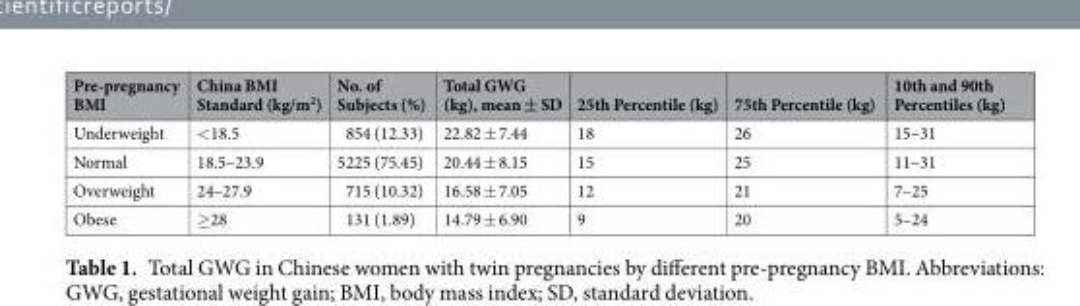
<table><thead><tr><td>Pre-pregnancy BMI</td><td>China BMI Standard (kg/m<sup>2</sup>)</td><td>No. of Subjects (%)</td><td>Total GWG (kg), mean ± SD</td><td>25th Percentile (kg)</td><td>75th Percentile (kg)</td><td>10th and 90th Percentiles (kg)</td></tr></thead><tbody><tr><td>Underweight</td><td>&lt;18.5</td><td>854 (12.33)</td><td>22.82 ± 7.44</td><td>18</td><td>26</td><td>15–31</td></tr><tr><td>Normal</td><td>18.5–23.9</td><td>5225 (75.45)</td><td>20.44 ± 8.15</td><td>15</td><td>25</td><td>11–31</td></tr><tr><td>Overweight</td><td>24–27.9</td><td>715 (10.32)</td><td>16.58 ± 7.05</td><td>12</td><td>21</td><td>7–25</td></tr><tr><td>Obese</td><td>≥28</td><td>131 (1.89)</td><td>14.79 ± 6.90</td><td>9</td><td>20</td><td>5–24</td></tr></tbody></table>